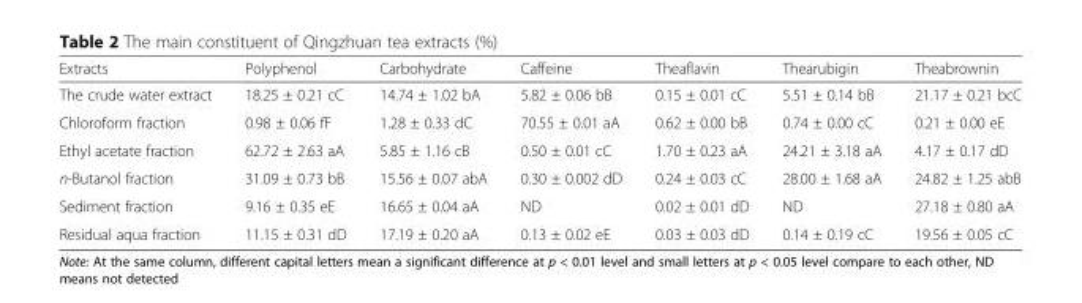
<table><thead><tr><td>Extracts</td><td>Polyphenol</td><td>Carbohydrate</td><td>Caffeine</td><td>Theaflavin</td><td>Thearubigin</td><td>Theabrownin</td></tr></thead><tbody><tr><td>The crude water extract</td><td>18.25 ± 0.21 cC</td><td>14.74 ± 1.02 bA</td><td>5.82 ± 0.06 bB</td><td>0.15 ± 0.01 cC</td><td>5.51 ± 0.14 bB</td><td>21.17 ± 0.21 bcC</td></tr><tr><td>Chloroform fraction</td><td>0.98 ± 0.06 fF</td><td>1.28 ± 0.33 dC</td><td>70.55 ± 0.01 aA</td><td>0.62 ± 0.00 bB</td><td>0.74 ± 0.00 cC</td><td>0.21 ± 0.00 eE</td></tr><tr><td>Ethyl acetate fraction</td><td>62.72 ± 2.63 aA</td><td>5.85 ± 1.16 cB</td><td>0.50 ± 0.01 cC</td><td>1.70 ± 0.23 aA</td><td>24.21 ± 3.18 aA</td><td>4.17 ± 0.17 dD</td></tr><tr><td>n-Butanol fraction</td><td>31.09 ± 0.73 bB</td><td>15.56 ± 0.07 abA</td><td>0.30 ± 0.002 dD</td><td>0.24 ± 0.03 cC</td><td>28.00 ± 1.68 aA</td><td>24.82 ± 1.25 abB</td></tr><tr><td>Sediment fraction</td><td>9.16 ± 0.35 eE</td><td>16.65 ± 0.04 aA</td><td>ND</td><td>0.02 ± 0.01 dD</td><td>ND</td><td>27.18 ± 0.80 aA</td></tr><tr><td>Residual aqua fraction</td><td>11.15 ± 0.31 dD</td><td>17.19 ± 0.20 aA</td><td>0.13 ± 0.02 eE</td><td>0.03 ± 0.03 dD</td><td>0.14 ± 0.19 cC</td><td>19.56 ± 0.05 cC</td></tr></tbody></table>